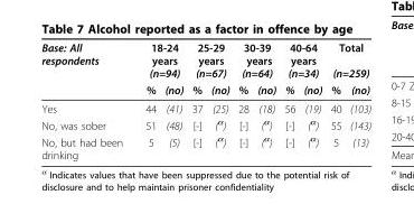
<table><thead><tr><td rowspan="2">Base: All respondents</td><td colspan="2">18-24 years (n=94)</td><td colspan="2">25-29 years (n=67)</td><td colspan="2">30-39 years (n=64)</td><td colspan="2">40-64 years (n=34)</td><td colspan="2">Total (n=259)</td></tr><tr><td>%</td><td>(no)</td><td>%</td><td>(no)</td><td>%</td><td>(no)</td><td>%</td><td>(no)</td><td>%</td><td>(no)</td></tr></thead><tbody><tr><td>Yes</td><td>44</td><td>(41)</td><td>37</td><td>(25)</td><td>28</td><td>(18)</td><td>56</td><td>(19)</td><td>40</td><td>(103)</td></tr><tr><td>No, was sober</td><td>51</td><td>(48)</td><td>[-]</td><td>(<sup>α</sup>)</td><td>[-]</td><td>(<sup>α</sup>)</td><td>[-]</td><td>(<sup>α</sup>)</td><td>55</td><td>(143)</td></tr><tr><td>No, but had been drinking</td><td>5</td><td>(5)</td><td>[-]</td><td>(<sup>α</sup>)</td><td>[-]</td><td>(<sup>α</sup>)</td><td>[-]</td><td>(<sup>α</sup>)</td><td>5</td><td>(13)</td></tr></tbody></table>